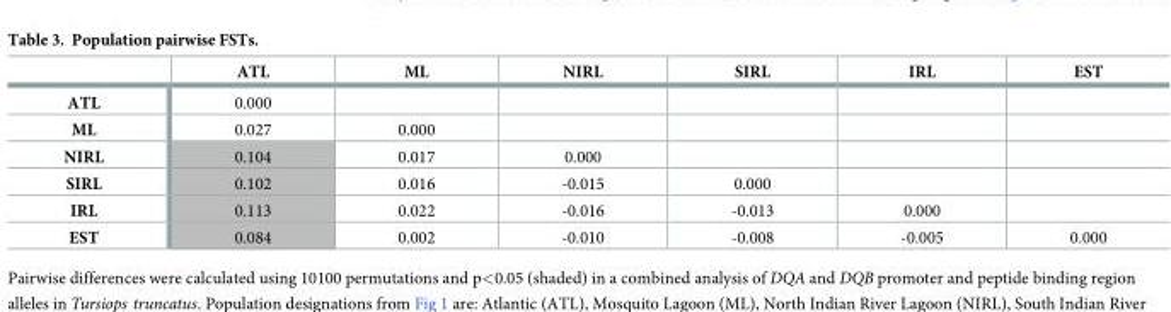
<table><thead><tr><td></td><td>ATL</td><td>ML</td><td>NIRL</td><td>SIRL</td><td>IRL</td><td>EST</td></tr></thead><tbody><tr><td>ATL</td><td>0.000</td><td></td><td></td><td></td><td></td><td></td></tr><tr><td>ML</td><td>0.027</td><td>0.000</td><td></td><td></td><td></td><td></td></tr><tr><td>NIRL</td><td>0.104</td><td>0.017</td><td>0.000</td><td></td><td></td><td></td></tr><tr><td>SIRL</td><td>0.102</td><td>0.016</td><td>-0.015</td><td>0.000</td><td></td><td></td></tr><tr><td>IRL</td><td>0.113</td><td>0.022</td><td>-0.016</td><td>-0.013</td><td>0.000</td><td></td></tr><tr><td>EST</td><td>0.084</td><td>0.002</td><td>-0.010</td><td>-0.008</td><td>-0.005</td><td>0.000</td></tr></tbody></table>